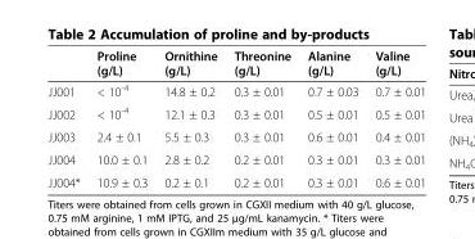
<table><thead><tr><td></td><td>Proline (g/L)</td><td>Ornithine (g/L)</td><td>Threonine (g/L)</td><td>Alanine (g/L)</td><td>Valine (g/L)</td></tr></thead><tbody><tr><td>JJ001</td><td>&lt; 10<sup>-4</sup></td><td>14.8 ± 0.2</td><td>0.3 ± 0.01</td><td>0.7 ± 0.03</td><td>0.7 ± 0.01</td></tr><tr><td>JJ002</td><td>&lt; 10<sup>-4</sup></td><td>12.1 ± 0.3</td><td>0.3 ± 0.01</td><td>0.5 ± 0.01</td><td>0.5 ± 0.01</td></tr><tr><td>JJ003</td><td>2.4 ± 0.1</td><td>5.5 ± 0.3</td><td>0.3 ± 0.01</td><td>0.6 ± 0.01</td><td>0.4 ± 0.01</td></tr><tr><td>JJ004</td><td>10.0 ± 0.1</td><td>2.8 ± 0.2</td><td>0.2 ± 0.01</td><td>0.3 ± 0.01</td><td>0.3 ± 0.01</td></tr><tr><td>JJ004*</td><td>10.9 ± 0.3</td><td>0.2 ± 0.1</td><td>0.2 ± 0.01</td><td>0.3 ± 0.01</td><td>0.6 ± 0.01</td></tr></tbody></table>